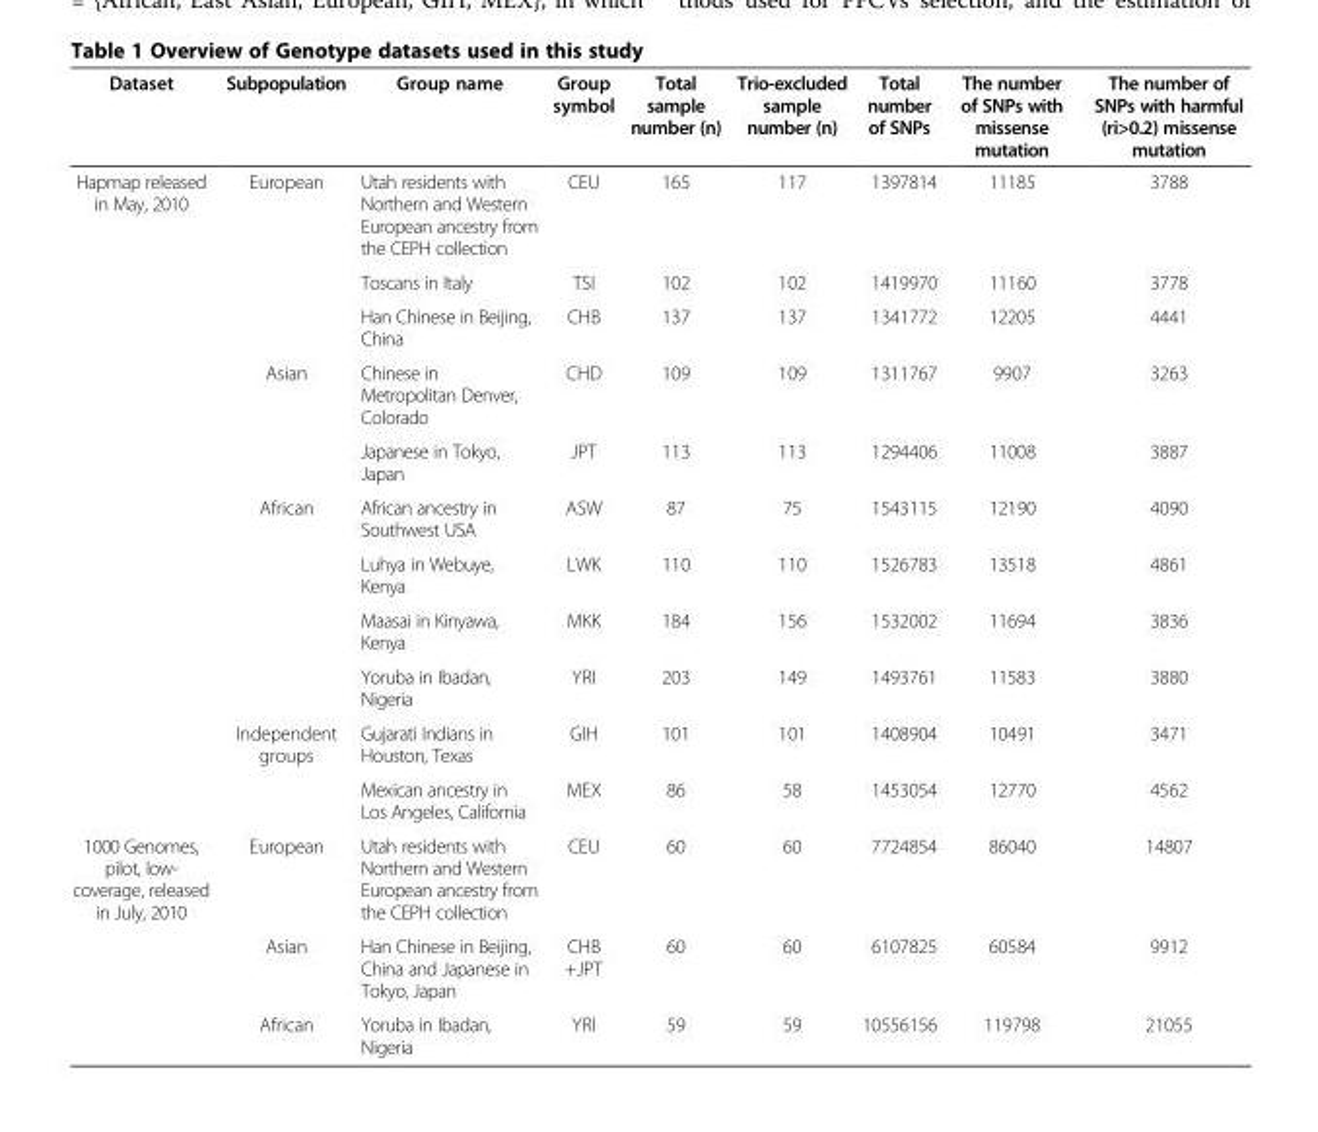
<table><thead><tr><td>Dataset</td><td>Subpopulation</td><td>Group name</td><td>Group symbol</td><td>Total sample number (n)</td><td>Trio-excluded sample number (n)</td><td>Total number of SNPs</td><td>The number of SNPs with missense mutation</td><td>The number of SNPs with harmful (ri&gt;0.2) missense mutation</td></tr></thead><tbody><tr><td rowspan="11">Hapmap released in May, 2010</td><td rowspan="3">European</td><td>Utah residents with Northern and Western European ancestry from the CEPH collection</td><td>CEU</td><td>165</td><td>117</td><td>1397814</td><td>11185</td><td>3788</td></tr><tr><td>Toscans in Italy</td><td>TSI</td><td>102</td><td>102</td><td>1419970</td><td>11160</td><td>3778</td></tr><tr><td>Han Chinese in Beijing, China</td><td>CHB</td><td>137</td><td>137</td><td>1341772</td><td>12205</td><td>4441</td></tr><tr><td rowspan="2">Asian</td><td>Chinese in Metropolitan Denver, Colorado</td><td>CHD</td><td>109</td><td>109</td><td>1311767</td><td>9907</td><td>3263</td></tr><tr><td>Japanese in Tokyo, Japan</td><td>JPT</td><td>113</td><td>113</td><td>1294406</td><td>11008</td><td>3887</td></tr><tr><td rowspan="4">African</td><td>African ancestry in Southwest USA</td><td>ASW</td><td>87</td><td>75</td><td>1543115</td><td>12190</td><td>4090</td></tr><tr><td>Luhya in Webuye, Kenya</td><td>LWK</td><td>110</td><td>110</td><td>1526783</td><td>13518</td><td>4861</td></tr><tr><td>Maasai in Kinyawa, Kenya</td><td>MKK</td><td>184</td><td>156</td><td>1532002</td><td>11694</td><td>3836</td></tr><tr><td>Yoruba in Ibadan, Nigeria</td><td>YRI</td><td>203</td><td>149</td><td>1493761</td><td>11583</td><td>3880</td></tr><tr><td rowspan="2">Independent groups</td><td>Gujarati Indians in Houston, Texas</td><td>GIH</td><td>101</td><td>101</td><td>1408904</td><td>10491</td><td>3471</td></tr><tr><td>Mexican ancestry in Los Angeles, California</td><td>MEX</td><td>86</td><td>58</td><td>1453054</td><td>12770</td><td>4562</td></tr><tr><td rowspan="3">1000 Genomes, pilot, low- coverage, released in July, 2010</td><td>European</td><td>Utah residents with Northern and Western European ancestry from the CEPH collection</td><td>CEU</td><td>60</td><td>60</td><td>7724854</td><td>86040</td><td>14807</td></tr><tr><td>Asian</td><td>Han Chinese in Beijing, China and Japanese in Tokyo, Japan</td><td>CHB +JPT</td><td>60</td><td>60</td><td>6107825</td><td>60584</td><td>9912</td></tr><tr><td>African</td><td>Yoruba in Ibadan, Nigeria</td><td>YRI</td><td>59</td><td>59</td><td>10556156</td><td>119798</td><td>21055</td></tr></tbody></table>